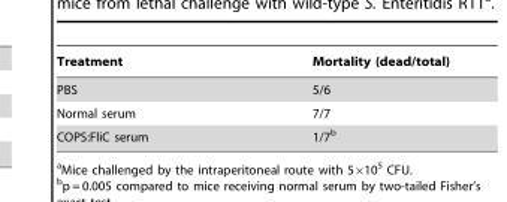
<table><thead><tr><td>Treatment</td><td>Mortality (dead/total)</td></tr></thead><tbody><tr><td>PBS</td><td>5/6</td></tr><tr><td>Normal serum</td><td>7/7</td></tr><tr><td>COPS:FliC serum</td><td>1/7<sup>b</sup></td></tr></tbody></table>